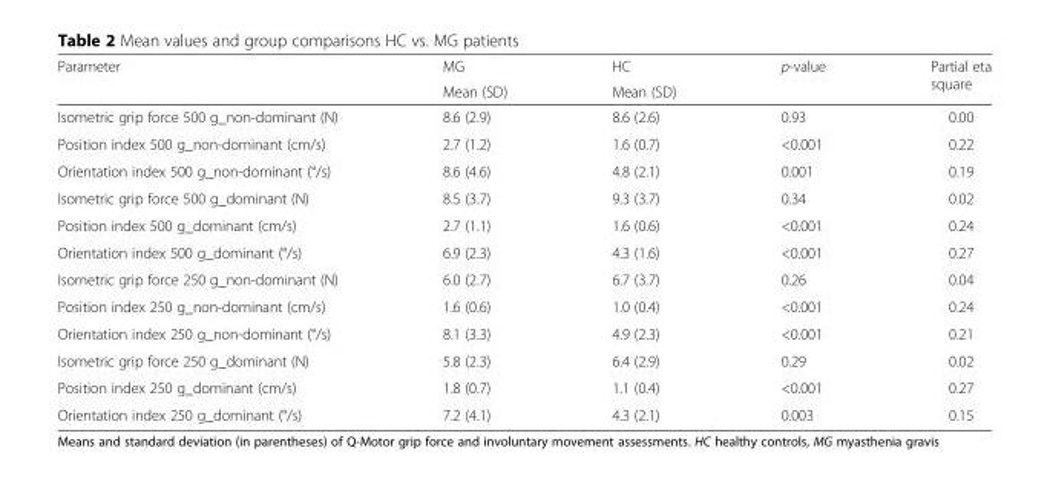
<table><thead><tr><td rowspan="2">Parameter</td><td rowspan="2">MG Mean (SD)</td><td rowspan="2">HC Mean (SD)</td><td rowspan="2">p-value</td><td rowspan="2">Partial eta square</td></tr><tr></tr></thead><tbody><tr><td>Isometric grip force 500 g_non-dominant (N)</td><td>8.6 (2.9)</td><td>8.6 (2.6)</td><td>0.93</td><td>0.00</td></tr><tr><td>Position index 500 g_non-dominant (cm/s)</td><td>2.7 (1.2)</td><td>1.6 (0.7)</td><td>&lt;0.001</td><td>0.22</td></tr><tr><td>Orientation index 500 g_non-dominant (°/s)</td><td>8.6 (4.6)</td><td>4.8 (2.1)</td><td>0.001</td><td>0.19</td></tr><tr><td>Isometric grip force 500 g_dominant (N)</td><td>8.5 (3.7)</td><td>9.3 (3.7)</td><td>0.34</td><td>0.02</td></tr><tr><td>Position index 500 g_dominant (cm/s)</td><td>2.7 (1.1)</td><td>1.6 (0.6)</td><td>&lt;0.001</td><td>0.24</td></tr><tr><td>Orientation index 500 g_dominant (°/s)</td><td>6.9 (2.3)</td><td>4.3 (1.6)</td><td>&lt;0.001</td><td>0.27</td></tr><tr><td>Isometric grip force 250 g_non-dominant (N)</td><td>6.0 (2.7)</td><td>6.7 (3.7)</td><td>0.26</td><td>0.04</td></tr><tr><td>Position index 250 g_non-dominant (cm/s)</td><td>1.6 (0.6)</td><td>1.0 (0.4)</td><td>&lt;0.001</td><td>0.24</td></tr><tr><td>Orientation index 250 g_non-dominant (°/s)</td><td>8.1 (3.3)</td><td>4.9 (2.3)</td><td>&lt;0.001</td><td>0.21</td></tr><tr><td>Isometric grip force 250 g_dominant (N)</td><td>5.8 (2.3)</td><td>6.4 (2.9)</td><td>0.29</td><td>0.02</td></tr><tr><td>Position index 250 g_dominant (cm/s)</td><td>1.8 (0.7)</td><td>1.1 (0.4)</td><td>&lt;0.001</td><td>0.27</td></tr><tr><td>Orientation index 250 g_dominant (°/s)</td><td>7.2 (4.1)</td><td>4.3 (2.1)</td><td>0.003</td><td>0.15</td></tr></tbody></table>